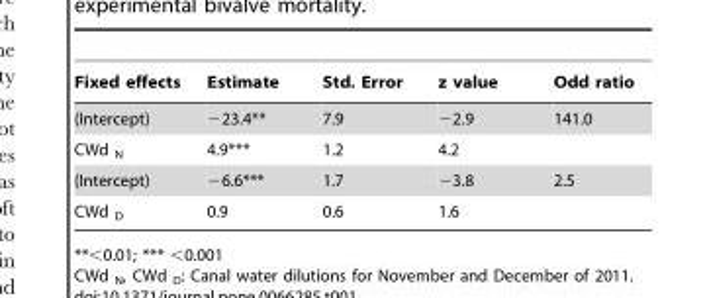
<table><thead><tr><td>Fixed effects</td><td>Estimate</td><td>Std. Error</td><td>z value</td><td>Odd ratio</td></tr></thead><tbody><tr><td>(Intercept)</td><td>−23.4**</td><td>7.9</td><td>−2.9</td><td>141.0</td></tr><tr><td>CWd <sub>N</sub></td><td>4.9***</td><td>1.2</td><td>4.2</td><td></td></tr><tr><td>(Intercept)</td><td>−6.6***</td><td>1.7</td><td>−3.8</td><td>2.5</td></tr><tr><td>CWd <sub>D</sub></td><td>0.9</td><td>0.6</td><td>1.6</td><td></td></tr></tbody></table>